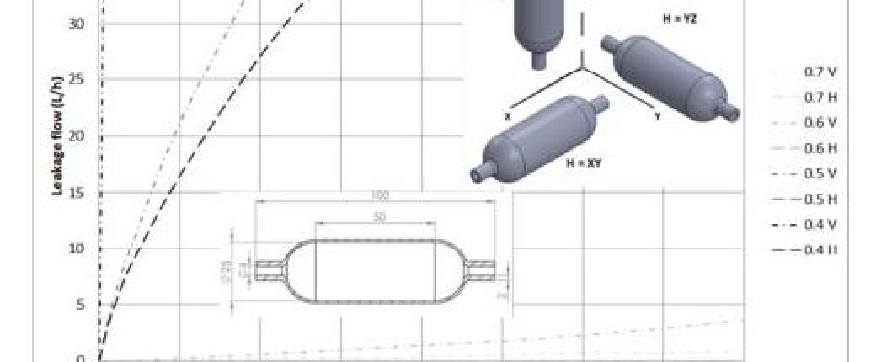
<table><thead><tr><td>Thickness (mm)</td><td>Printing Orientation (H = Horizontal and V = Hertical)</td><td>Pressure to Leak 3L/h (MPa)</td></tr></thead><tbody><tr><td>0.7</td><td>V</td><td>&gt;0.400</td></tr><tr><td>0.7</td><td>H</td><td>&gt;0.400</td></tr><tr><td>0.6</td><td>V</td><td>0.357</td></tr><tr><td>0.6</td><td>H</td><td>&gt;0.400</td></tr><tr><td>0.5</td><td>V</td><td>0.044</td></tr><tr><td>0.5</td><td>H</td><td>&gt;0.400</td></tr><tr><td>0.4</td><td>V</td><td>0.003</td></tr><tr><td>0.4</td><td>H</td><td>0.052</td></tr></tbody></table>